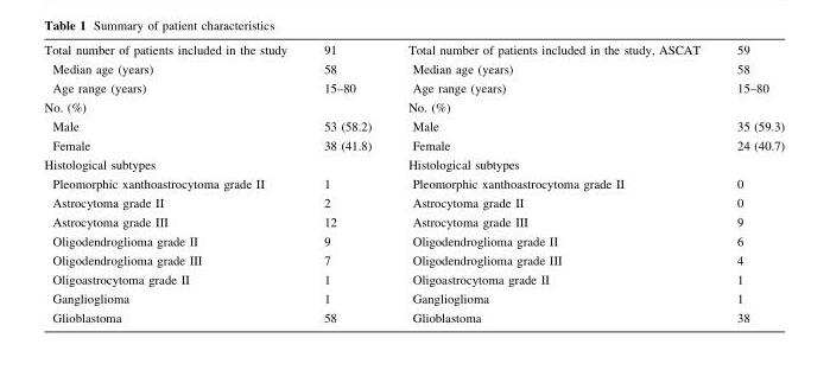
<table><tbody><tr><td>Total number of patients included in the study</td><td>91</td><td>Total number of patients included in the study, ASCAT</td><td>59</td></tr><tr><td>Median age (years)</td><td>58</td><td>Median age (years)</td><td>58</td></tr><tr><td>Age range (years)</td><td>15–80</td><td>Age range (years)</td><td>15–80</td></tr><tr><td colspan="2">No. (%)</td><td colspan="2">No. (%)</td></tr><tr><td>Male</td><td>53 (58.2)</td><td>Male</td><td>35 (59.3)</td></tr><tr><td>Female</td><td>38 (41.8)</td><td>Female</td><td>24 (40.7)</td></tr><tr><td colspan="2">Histological subtypes</td><td colspan="2">Histological subtypes</td></tr><tr><td>Pleomorphic xanthoastrocytoma grade II</td><td>1</td><td>Pleomorphic xanthoastrocytoma grade II</td><td>0</td></tr><tr><td>Astrocytoma grade II</td><td>2</td><td>Astrocytoma grade II</td><td>0</td></tr><tr><td>Astrocytoma grade III</td><td>12</td><td>Astrocytoma grade III</td><td>9</td></tr><tr><td>Oligodendroglioma grade II</td><td>9</td><td>Oligodendroglioma grade II</td><td>6</td></tr><tr><td>Oligodendroglioma grade III</td><td>7</td><td>Oligodendroglioma grade III</td><td>4</td></tr><tr><td>Oligoastrocytoma grade II</td><td>1</td><td>Oligoastrocytoma grade II</td><td>1</td></tr><tr><td>Ganglioglioma</td><td>1</td><td>Ganglioglioma</td><td>1</td></tr><tr><td>Glioblastoma</td><td>58</td><td>Glioblastoma</td><td>38</td></tr></tbody></table>